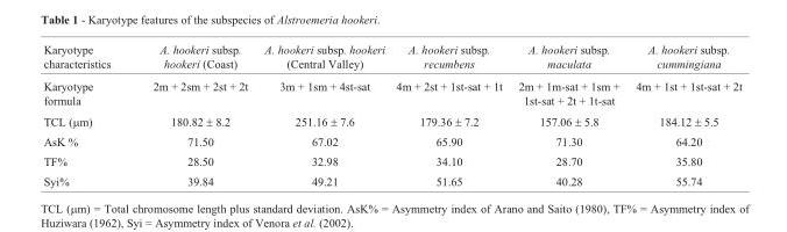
<table><thead><tr><td>Karyotype characteristics</td><td>A. hookeri subsp. hookeri (Coast)</td><td>A. hookeri subsp. hookeri (Central Valley)</td><td>A. hookeri subsp. recumbens</td><td>A. hookeri subsp. maculata</td><td>A. hookeri subsp. cummingiana</td></tr></thead><tbody><tr><td>Karyotype formula</td><td>2m + 2sm + 2st + 2t</td><td>3m + 1sm + 4st-sat</td><td>4m + 2st + 1st-sat + 1t</td><td>2m + 1m-sat + 1sm + 1st-sat + 2t + 1t-sat</td><td>4m + 1st + 1st-sat + 2t</td></tr><tr><td>TCL (μm)</td><td>180.82 ± 8.2</td><td>251.16 ± 7.6</td><td>179.36 ± 7.2</td><td>157.06 ± 5.8</td><td>184.12 ± 5.5</td></tr><tr><td>AsK %</td><td>71.50</td><td>67.02</td><td>65.90</td><td>71.30</td><td>64.20</td></tr><tr><td>TF%</td><td>28.50</td><td>32.98</td><td>34.10</td><td>28.70</td><td>35.80</td></tr><tr><td>Syi%</td><td>39.84</td><td>49.21</td><td>51.65</td><td>40.28</td><td>55.74</td></tr></tbody></table>